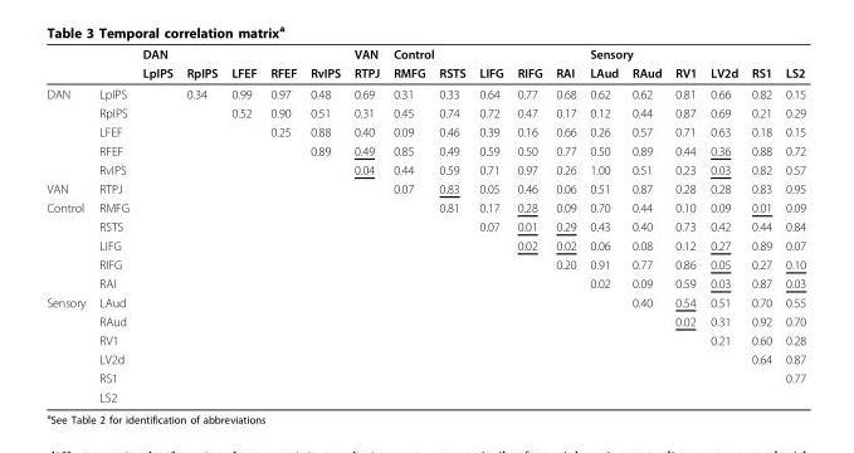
<table><thead><tr><td rowspan="2"></td><td rowspan="2"></td><td rowspan="2">DAN LpIPS</td><td rowspan="2">RpIPS</td><td rowspan="2">LFEF</td><td rowspan="2">RFEF</td><td rowspan="2">RvIPS</td><td rowspan="2">VAN RTPJ</td><td colspan="2">Control</td><td rowspan="2">LIFG</td><td rowspan="2">RIFG</td><td rowspan="2">RAI</td><td colspan="2">Sensory</td><td rowspan="2">RV1</td><td rowspan="2">LV2d</td><td rowspan="2">RS1</td><td rowspan="2">LS2</td></tr><tr><td>RMFG</td><td>RSTS</td><td>LAud</td><td>RAud</td></tr></thead><tbody><tr><td rowspan="5">DAN</td><td>LpIPS</td><td></td><td>0.34</td><td>0.99</td><td>0.97</td><td>0.48</td><td>0.69</td><td>0.31</td><td>0.33</td><td>0.64</td><td>0.77</td><td>0.68</td><td>0.62</td><td>0.62</td><td>0.81</td><td>0.66</td><td>0.82</td><td>0.15</td></tr><tr><td>RpIPS</td><td></td><td></td><td>0.52</td><td>0.90</td><td>0.51</td><td>0.31</td><td>0.45</td><td>0.74</td><td>0.72</td><td>0.47</td><td>0.17</td><td>0.12</td><td>0.44</td><td>0.87</td><td>0.69</td><td>0.21</td><td>0.29</td></tr><tr><td>LFEF</td><td></td><td></td><td></td><td>0.25</td><td>0.88</td><td>0.40</td><td>0.09</td><td>0.46</td><td>0.39</td><td>0.16</td><td>0.66</td><td>0.26</td><td>0.57</td><td>0.71</td><td>0.63</td><td>0.18</td><td>0.15</td></tr><tr><td>RFEF</td><td></td><td></td><td></td><td></td><td>0.89</td><td>0.49</td><td>0.85</td><td>0.49</td><td>0.59</td><td>0.50</td><td>0.77</td><td>0.50</td><td>0.89</td><td>0.44</td><td>0.36</td><td>0.88</td><td>0.72</td></tr><tr><td>RvIPS</td><td></td><td></td><td></td><td></td><td></td><td>0.04</td><td>0.44</td><td>0.59</td><td>0.71</td><td>0.97</td><td>0.26</td><td>1.00</td><td>0.51</td><td>0.23</td><td>0.03</td><td>0.82</td><td>0.57</td></tr><tr><td>VAN</td><td>RTPJ</td><td></td><td></td><td></td><td></td><td></td><td></td><td>0.07</td><td>0.83</td><td>0.05</td><td>0.46</td><td>0.06</td><td>0.51</td><td>0.87</td><td>0.28</td><td>0.28</td><td>0.83</td><td>0.95</td></tr><tr><td rowspan="5">Control</td><td>RMFG</td><td></td><td></td><td></td><td></td><td></td><td></td><td></td><td>0.81</td><td>0.17</td><td>0.28</td><td>0.09</td><td>0.70</td><td>0.44</td><td>0.10</td><td>0.09</td><td>0.01</td><td>0.09</td></tr><tr><td>RSTS</td><td></td><td></td><td></td><td></td><td></td><td></td><td></td><td></td><td>0.07</td><td>0.01</td><td>0.29</td><td>0.43</td><td>0.40</td><td>0.73</td><td>0.42</td><td>0.44</td><td>0.84</td></tr><tr><td>LIFG</td><td></td><td></td><td></td><td></td><td></td><td></td><td></td><td></td><td></td><td>0.02</td><td>0.02</td><td>0.06</td><td>0.08</td><td>0.12</td><td>0.27</td><td>0.89</td><td>0.07</td></tr><tr><td>RIFG</td><td></td><td></td><td></td><td></td><td></td><td></td><td></td><td></td><td></td><td></td><td>0.20</td><td>0.91</td><td>0.77</td><td>0.86</td><td>0.05</td><td>0.27</td><td>0.10</td></tr><tr><td>RAI</td><td></td><td></td><td></td><td></td><td></td><td></td><td></td><td></td><td></td><td></td><td></td><td>0.02</td><td>0.09</td><td>0.59</td><td>0.03</td><td>0.87</td><td>0.03</td></tr><tr><td rowspan="6">Sensory</td><td>LAud</td><td></td><td></td><td></td><td></td><td></td><td></td><td></td><td></td><td></td><td></td><td></td><td></td><td>0.40</td><td>0.54</td><td>0.51</td><td>0.70</td><td>0.55</td></tr><tr><td>RAud</td><td></td><td></td><td></td><td></td><td></td><td></td><td></td><td></td><td></td><td></td><td></td><td></td><td></td><td>0.02</td><td>0.31</td><td>0.92</td><td>0.70</td></tr><tr><td>RV1</td><td></td><td></td><td></td><td></td><td></td><td></td><td></td><td></td><td></td><td></td><td></td><td></td><td></td><td></td><td>0.21</td><td>0.60</td><td>0.28</td></tr><tr><td>LV2d</td><td></td><td></td><td></td><td></td><td></td><td></td><td></td><td></td><td></td><td></td><td></td><td></td><td></td><td></td><td></td><td>0.64</td><td>0.87</td></tr><tr><td>RS1</td><td></td><td></td><td></td><td></td><td></td><td></td><td></td><td></td><td></td><td></td><td></td><td></td><td></td><td></td><td></td><td></td><td>0.77</td></tr><tr><td>LS2</td><td></td><td></td><td></td><td></td><td></td><td></td><td></td><td></td><td></td><td></td><td></td><td></td><td></td><td></td><td></td><td></td><td></td></tr></tbody></table>